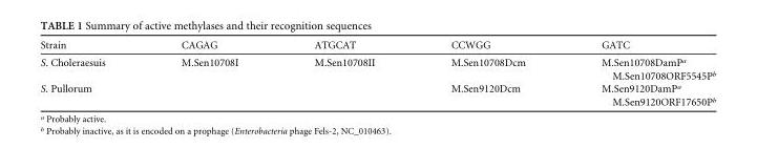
<table><thead><tr><td>Strain</td><td>CAGAG</td><td>ATGCAT</td><td>CCWGG</td><td>GATC</td></tr></thead><tbody><tr><td>S. Choleraesuis</td><td>M.Sen10708I</td><td>M.Sen10708II</td><td>M.Sen10708Dcm</td><td>M.Sen10708DamPa M.Sen10708ORF5545Pb</td></tr><tr><td>S. Pullorum</td><td></td><td></td><td>M.Sen9120Dcm</td><td>M.Sen9120DamP<sup>a</sup> M.Sen9120ORF17650P<sup>b</sup></td></tr></tbody></table>